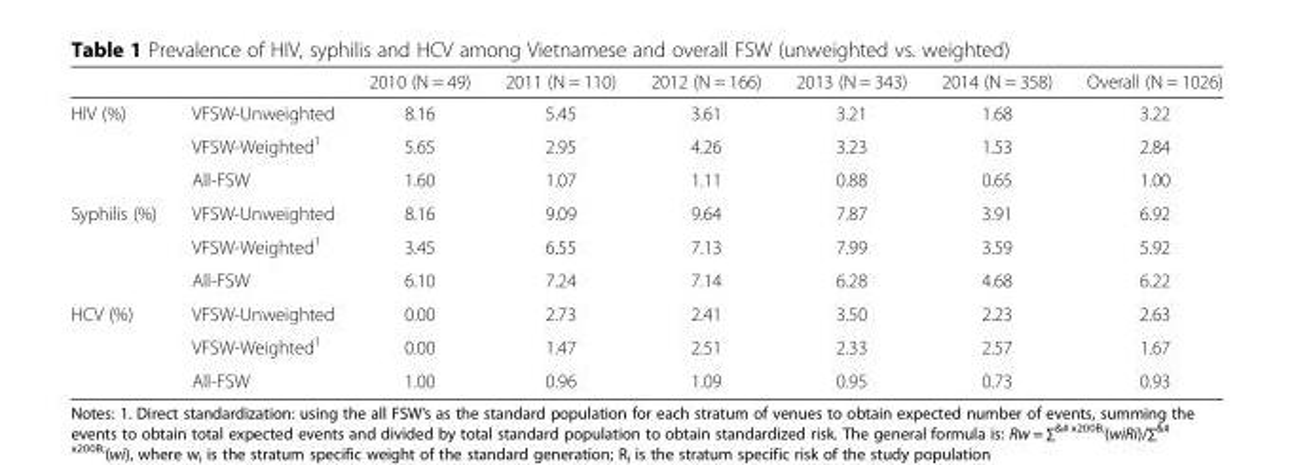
<table><thead><tr><td></td><td></td><td>2010 (N = 49)</td><td>2011 (N = 110)</td><td>2012 (N = 166)</td><td>2013 (N = 343)</td><td>2014 (N = 358)</td><td>Overall (N = 1026)</td></tr></thead><tbody><tr><td rowspan="3">HIV (%)</td><td>VFSW-Unweighted</td><td>8.16</td><td>5.45</td><td>3.61</td><td>3.21</td><td>1.68</td><td>3.22</td></tr><tr><td>VFSW-Weighted<sup>1</sup></td><td>5.65</td><td>2.95</td><td>4.26</td><td>3.23</td><td>1.53</td><td>2.84</td></tr><tr><td>All-FSW</td><td>1.60</td><td>1.07</td><td>1.11</td><td>0.88</td><td>0.65</td><td>1.00</td></tr><tr><td rowspan="3">Syphilis (%)</td><td>VFSW-Unweighted</td><td>8.16</td><td>9.09</td><td>9.64</td><td>7.87</td><td>3.91</td><td>6.92</td></tr><tr><td>VFSW-Weighted<sup>1</sup></td><td>3.45</td><td>6.55</td><td>7.13</td><td>7.99</td><td>3.59</td><td>5.92</td></tr><tr><td>All-FSW</td><td>6.10</td><td>7.24</td><td>7.14</td><td>6.28</td><td>4.68</td><td>6.22</td></tr><tr><td rowspan="3">HCV (%)</td><td>VFSW-Unweighted</td><td>0.00</td><td>2.73</td><td>2.41</td><td>3.50</td><td>2.23</td><td>2.63</td></tr><tr><td>VFSW-Weighted<sup>1</sup></td><td>0.00</td><td>1.47</td><td>2.51</td><td>2.33</td><td>2.57</td><td>1.67</td></tr><tr><td>All-FSW</td><td>1.00</td><td>0.96</td><td>1.09</td><td>0.95</td><td>0.73</td><td>0.93</td></tr></tbody></table>